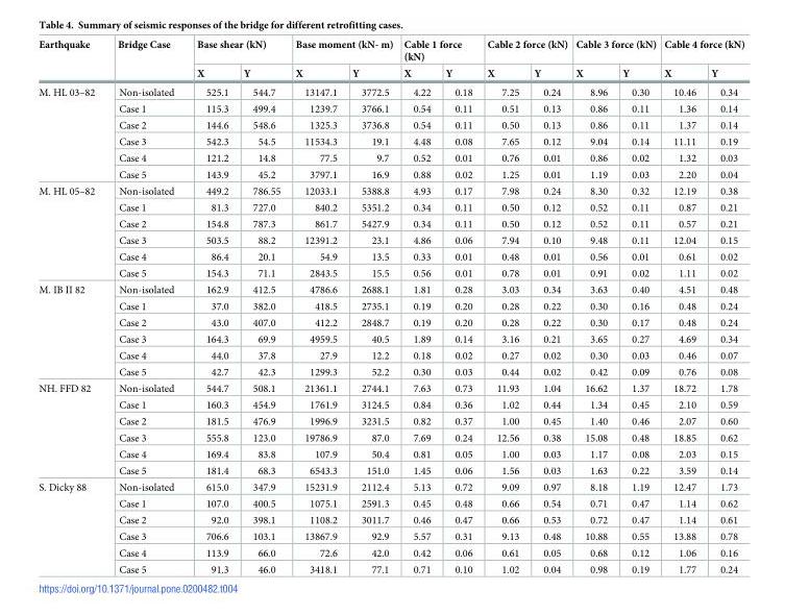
<table><thead><tr><td rowspan="2">Earthquake</td><td rowspan="2">Bridge Case</td><td colspan="2">Base shear (kN)</td><td colspan="2">Base moment (kN- m)</td><td colspan="2">Cable 1 force (kN)</td><td colspan="2">Cable 2 force (kN)</td><td colspan="2">Cable 3 force (kN)</td><td colspan="2">Cable 4 force (kN)</td></tr><tr><td>X</td><td>Y</td><td>X</td><td>Y</td><td>X</td><td>Y</td><td>X</td><td>Y</td><td>X</td><td>Y</td><td>X</td><td>Y</td></tr></thead><tbody><tr><td rowspan="6">M. HL 03–82</td><td>Non-isolated</td><td>525.1</td><td>544.7</td><td>13147.1</td><td>3772.5</td><td>4.22</td><td>0.18</td><td>7.25</td><td>0.24</td><td>8.96</td><td>0.30</td><td>10.46</td><td>0.34</td></tr><tr><td>Case 1</td><td>115.3</td><td>499.4</td><td>1239.7</td><td>3766.1</td><td>0.54</td><td>0.11</td><td>0.51</td><td>0.13</td><td>0.86</td><td>0.11</td><td>1.36</td><td>0.14</td></tr><tr><td>Case 2</td><td>144.6</td><td>548.6</td><td>1325.3</td><td>3736.8</td><td>0.54</td><td>0.11</td><td>0.50</td><td>0.13</td><td>0.86</td><td>0.11</td><td>1.37</td><td>0.14</td></tr><tr><td>Case 3</td><td>542.3</td><td>54.5</td><td>11534.3</td><td>19.1</td><td>4.48</td><td>0.08</td><td>7.65</td><td>0.12</td><td>9.04</td><td>0.14</td><td>11.11</td><td>0.19</td></tr><tr><td>Case 4</td><td>121.2</td><td>14.8</td><td>77.5</td><td>9.7</td><td>0.52</td><td>0.01</td><td>0.76</td><td>0.01</td><td>0.86</td><td>0.02</td><td>1.32</td><td>0.03</td></tr><tr><td>Case 5</td><td>143.9</td><td>45.2</td><td>3797.1</td><td>16.9</td><td>0.88</td><td>0.02</td><td>1.25</td><td>0.01</td><td>1.19</td><td>0.03</td><td>2.20</td><td>0.04</td></tr><tr><td rowspan="6">M. HL 05–82</td><td>Non-isolated</td><td>449.2</td><td>786.55</td><td>12033.1</td><td>5388.8</td><td>4.93</td><td>0.17</td><td>7.98</td><td>0.24</td><td>8.30</td><td>0.32</td><td>12.19</td><td>0.38</td></tr><tr><td>Case 1</td><td>81.3</td><td>727.0</td><td>840.2</td><td>5351.2</td><td>0.34</td><td>0.11</td><td>0.50</td><td>0.12</td><td>0.52</td><td>0.11</td><td>0.87</td><td>0.21</td></tr><tr><td>Case 2</td><td>154.8</td><td>787.3</td><td>861.7</td><td>5427.9</td><td>0.34</td><td>0.11</td><td>0.50</td><td>0.12</td><td>0.52</td><td>0.11</td><td>0.57</td><td>0.21</td></tr><tr><td>Case 3</td><td>503.5</td><td>88.2</td><td>12391.2</td><td>23.1</td><td>4.86</td><td>0.06</td><td>7.94</td><td>0.10</td><td>9.48</td><td>0.11</td><td>12.04</td><td>0.15</td></tr><tr><td>Case 4</td><td>86.4</td><td>20.1</td><td>54.9</td><td>13.5</td><td>0.33</td><td>0.01</td><td>0.48</td><td>0.01</td><td>0.56</td><td>0.01</td><td>0.61</td><td>0.02</td></tr><tr><td>Case 5</td><td>154.3</td><td>71.1</td><td>2843.5</td><td>15.5</td><td>0.56</td><td>0.01</td><td>0.78</td><td>0.01</td><td>0.91</td><td>0.02</td><td>1.11</td><td>0.02</td></tr><tr><td rowspan="6">M. IB II 82</td><td>Non-isolated</td><td>162.9</td><td>412.5</td><td>4786.6</td><td>2688.1</td><td>1.81</td><td>0.28</td><td>3.03</td><td>0.34</td><td>3.63</td><td>0.40</td><td>4.51</td><td>0.48</td></tr><tr><td>Case 1</td><td>37.0</td><td>382.0</td><td>418.5</td><td>2735.1</td><td>0.19</td><td>0.20</td><td>0.28</td><td>0.22</td><td>0.30</td><td>0.16</td><td>0.48</td><td>0.24</td></tr><tr><td>Case 2</td><td>43.0</td><td>407.0</td><td>412.2</td><td>2848.7</td><td>0.19</td><td>0.20</td><td>0.28</td><td>0.22</td><td>0.30</td><td>0.17</td><td>0.48</td><td>0.24</td></tr><tr><td>Case 3</td><td>164.3</td><td>69.9</td><td>4959.5</td><td>40.5</td><td>1.89</td><td>0.14</td><td>3.16</td><td>0.21</td><td>3.65</td><td>0.27</td><td>4.69</td><td>0.34</td></tr><tr><td>Case 4</td><td>44.0</td><td>37.8</td><td>27.9</td><td>12.2</td><td>0.18</td><td>0.02</td><td>0.27</td><td>0.02</td><td>0.30</td><td>0.03</td><td>0.46</td><td>0.07</td></tr><tr><td>Case 5</td><td>42.7</td><td>42.3</td><td>1299.3</td><td>52.2</td><td>0.30</td><td>0.03</td><td>0.44</td><td>0.02</td><td>0.42</td><td>0.09</td><td>0.76</td><td>0.08</td></tr><tr><td rowspan="6">NH. FFD 82</td><td>Non-isolated</td><td>544.7</td><td>508.1</td><td>21361.1</td><td>2744.1</td><td>7.63</td><td>0.73</td><td>11.93</td><td>1.04</td><td>16.62</td><td>1.37</td><td>18.72</td><td>1.78</td></tr><tr><td>Case 1</td><td>160.3</td><td>454.9</td><td>1761.9</td><td>3124.5</td><td>0.84</td><td>0.36</td><td>1.02</td><td>0.44</td><td>1.34</td><td>0.45</td><td>2.10</td><td>0.59</td></tr><tr><td>Case 2</td><td>181.5</td><td>476.9</td><td>1996.9</td><td>3231.5</td><td>0.82</td><td>0.37</td><td>1.00</td><td>0.45</td><td>1.40</td><td>0.46</td><td>2.07</td><td>0.60</td></tr><tr><td>Case 3</td><td>555.8</td><td>123.0</td><td>19786.9</td><td>87.0</td><td>7.69</td><td>0.24</td><td>12.56</td><td>0.38</td><td>15.08</td><td>0.48</td><td>18.85</td><td>0.62</td></tr><tr><td>Case 4</td><td>169.4</td><td>83.8</td><td>107.9</td><td>50.4</td><td>0.81</td><td>0.05</td><td>1.00</td><td>0.03</td><td>1.17</td><td>0.08</td><td>2.03</td><td>0.15</td></tr><tr><td>Case 5</td><td>181.4</td><td>68.3</td><td>6543.3</td><td>151.0</td><td>1.45</td><td>0.06</td><td>1.56</td><td>0.03</td><td>1.63</td><td>0.22</td><td>3.59</td><td>0.14</td></tr><tr><td rowspan="6">S. Dicky 88</td><td>Non-isolated</td><td>615.0</td><td>347.9</td><td>15231.9</td><td>2112.4</td><td>5.13</td><td>0.72</td><td>9.09</td><td>0.97</td><td>8.18</td><td>1.19</td><td>12.47</td><td>1.73</td></tr><tr><td>Case 1</td><td>107.0</td><td>400.5</td><td>1075.1</td><td>2591.3</td><td>0.45</td><td>0.48</td><td>0.66</td><td>0.54</td><td>0.71</td><td>0.47</td><td>1.14</td><td>0.62</td></tr><tr><td>Case 2</td><td>92.0</td><td>398.1</td><td>1108.2</td><td>3011.7</td><td>0.46</td><td>0.47</td><td>0.66</td><td>0.53</td><td>0.72</td><td>0.47</td><td>1.14</td><td>0.61</td></tr><tr><td>Case 3</td><td>706.6</td><td>103.1</td><td>13867.9</td><td>92.9</td><td>5.57</td><td>0.31</td><td>9.13</td><td>0.48</td><td>10.88</td><td>0.55</td><td>13.88</td><td>0.78</td></tr><tr><td>Case 4</td><td>113.9</td><td>66.0</td><td>72.6</td><td>42.0</td><td>0.42</td><td>0.06</td><td>0.61</td><td>0.05</td><td>0.68</td><td>0.12</td><td>1.06</td><td>0.16</td></tr><tr><td>Case 5</td><td>91.3</td><td>46.0</td><td>3418.1</td><td>77.1</td><td>0.71</td><td>0.10</td><td>1.02</td><td>0.04</td><td>0.98</td><td>0.19</td><td>1.77</td><td>0.24</td></tr></tbody></table>